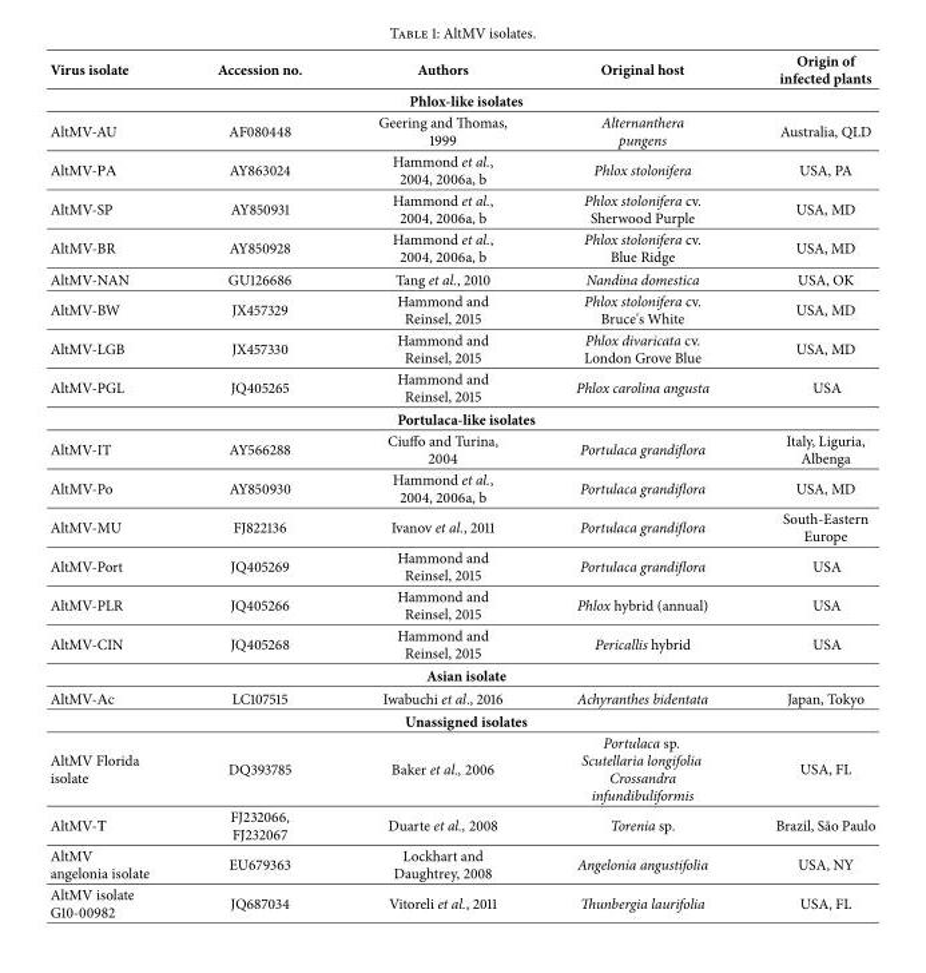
<table><thead><tr><td>Virus isolate</td><td>Accession no.</td><td>Authors</td><td>Original host</td><td>Origin of infected plants</td></tr></thead><tbody><tr><td colspan="5">Phlox-like isolates</td></tr><tr><td>AltMV-AU</td><td>AF080448</td><td>Geering and Thomas, 1999</td><td>Alternanthera pungens</td><td>Australia, QLD</td></tr><tr><td>AltMV-`0</td><td>AY863024</td><td>Hammond et al., 2004, 2006a, b</td><td>Phlox stolonifera</td><td>USA, PA</td></tr><tr><td>AltMV-SP</td><td>AY850931</td><td>Hammond et al., 2004, 2006a, b</td><td>Phlox stolonifera cv. Sherwood Purple</td><td>USA, MD</td></tr><tr><td>AltMV-BR</td><td>AY850928</td><td>Hammond et al., 2004, 2006a, b</td><td>Phlox stolonifera cv. Blue Ridge</td><td>USA, MD</td></tr><tr><td>AltMV-NAN</td><td>GU126686</td><td>Tang et al., 2010</td><td>Nandina domestica</td><td>USA, OK</td></tr><tr><td>AltMV-BW</td><td>JX457329</td><td>Hammond and Reinsel, 2015</td><td>Phlox stolonifera cv. Bruce&#x27;s White</td><td>USA, MD</td></tr><tr><td>AltMV-LGB</td><td>JX457330</td><td>Hammond and Reinsel, 2015</td><td>Phlox divaricata cv. London Grove Blue</td><td>USA, MD</td></tr><tr><td>AltMV-PGL</td><td>JQ405265</td><td>Hammond and Reinsel, 2015</td><td>Phlox carolina angusta</td><td>USA</td></tr><tr><td colspan="5">Portulaca-like isolates</td></tr><tr><td>AltMV-IT</td><td>AY566288</td><td>Ciuffo and Turina, 2004</td><td>Portulaca grandiflora</td><td>Italy, Liguria, Albenga</td></tr><tr><td>AltMV-Po</td><td>AY850930</td><td>Hammond et al., 2004, 2006a, b</td><td>Portulaca grandiflora</td><td>USA, MD</td></tr><tr><td>AltMV-MU</td><td>FJ822136</td><td>Ivanov et al., 2011</td><td>Portulaca grandiflora</td><td>South-Eastern Europe</td></tr><tr><td>AltMV-Port</td><td>JQ405269</td><td>Hammond and Reinsel, 2015</td><td>Portulaca grandiflora</td><td>USA</td></tr><tr><td>AltMV-PLR</td><td>JQ405266</td><td>Hammond and Reinsel, 2015</td><td>Phlox hybrid (annual)</td><td>USA</td></tr><tr><td>AltMV-CIN</td><td>JQ405268</td><td>Hammond and Reinsel, 2015</td><td>Pericallis hybrid</td><td>USA</td></tr><tr><td colspan="5">Asian isolate</td></tr><tr><td>AltMV-Аc</td><td>LC107515</td><td>Iwabuchi et al., 2016</td><td>Achyranthes bidentata</td><td>Japan, Tokyo</td></tr><tr><td colspan="5">Unassigned isolates</td></tr><tr><td>AltMV Florida isolate</td><td>DQ393785</td><td>Baker et al., 2006</td><td>Portulaca sp. Scutellaria longifolia Crossandra infundibuliformis</td><td>USA, FL</td></tr><tr><td>AltMV-Т</td><td>FJ232066, FJ232067</td><td>Duarte et al., 2008</td><td>Torenia sp.</td><td>Brazil, S˜ao Paulo</td></tr><tr><td>AltMV angelonia isolate</td><td>EU679363</td><td>Lockhart and Daughtrey, 2008</td><td>Angelonia angustifolia</td><td>USA, NY</td></tr><tr><td>AltMV isolate G10-00982</td><td>JQ687034</td><td>Vitoreli et al., 2011</td><td>Thunbergia laurifolia</td><td>USA, FL</td></tr></tbody></table>